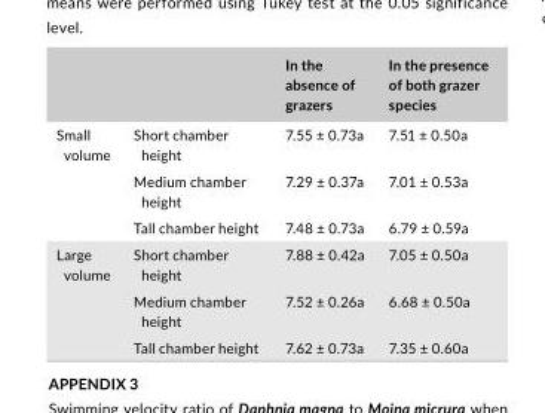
<table><thead><tr><td></td><td></td><td>In the absence of grazers</td><td>In the presence of both grazer species</td></tr></thead><tbody><tr><td rowspan="3">Small volume</td><td>Short chamber height</td><td>7.55 ± 0.73a</td><td>7.51 ± 0.50a</td></tr><tr><td>Medium chamber height</td><td>7.29 ± 0.37a</td><td>7.01 ± 0.53a</td></tr><tr><td>Tall chamber height</td><td>7.48 ± 0.73a</td><td>6.79 ± 0.59a</td></tr><tr><td rowspan="3">Large volume</td><td>Short chamber height</td><td>7.88 ± 0.42a</td><td>7.05 ± 0.50a</td></tr><tr><td>Medium chamber height</td><td>7.52 ± 0.26a</td><td>6.68 ± 0.50a</td></tr><tr><td>Tall chamber height</td><td>7.62 ± 0.73a</td><td>7.35 ± 0.60a</td></tr></tbody></table>